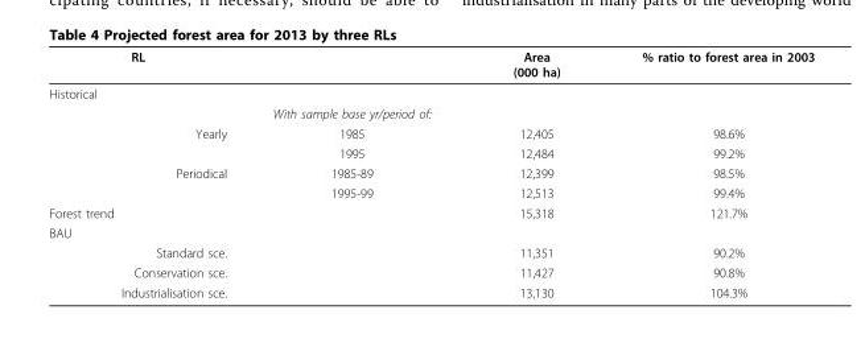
<table><thead><tr><td>RL</td><td></td><td>Area (000 ha)</td><td>% ratio to forest area in 2003</td></tr></thead><tbody><tr><td colspan="4">Historical</td></tr><tr><td></td><td>With sample base yr/period of:</td><td></td><td></td></tr><tr><td rowspan="2">Yearly</td><td>1985</td><td>12,405</td><td>98.6%</td></tr><tr><td>1995</td><td>12,484</td><td>99.2%</td></tr><tr><td rowspan="2">Periodical</td><td>1985-89</td><td>12,399</td><td>98.5%</td></tr><tr><td>1995-99</td><td>12,513</td><td>99.4%</td></tr><tr><td>Forest trend</td><td></td><td>15,318</td><td>121.7%</td></tr><tr><td colspan="4">BAU</td></tr><tr><td>Standard sce.</td><td></td><td>11,351</td><td>90.2%</td></tr><tr><td>Conservation sce.</td><td></td><td>11,427</td><td>90.8%</td></tr><tr><td>Industrialisation sce.</td><td></td><td>13,130</td><td>104.3%</td></tr></tbody></table>